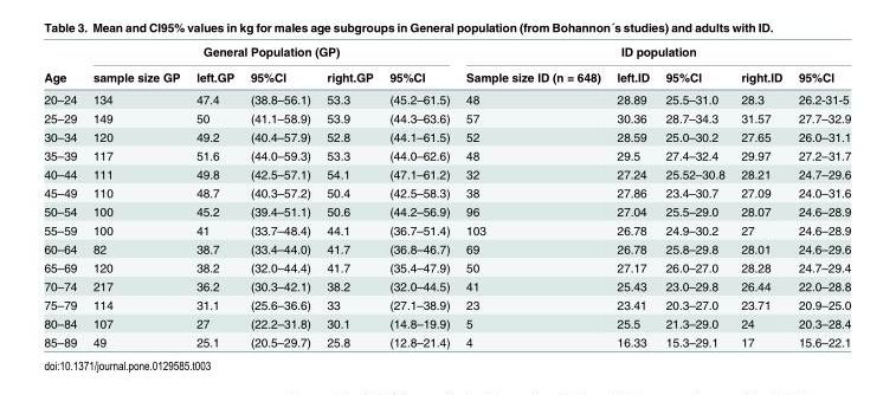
<table><thead><tr><td rowspan="2">Age</td><td colspan="5">General Population (GP)</td><td colspan="5">ID population</td></tr><tr><td>sample size GP</td><td>left.GP</td><td>95%CI</td><td>right.GP</td><td>95%CI</td><td>Sample size ID (n = 648)</td><td>left.ID</td><td>95%CI</td><td>right.ID</td><td>95%CI</td></tr></thead><tbody><tr><td>20–24</td><td>134</td><td>47.4</td><td>(38.8–56.1)</td><td>53.3</td><td>(45.2–61.5)</td><td>48</td><td>28.89</td><td>25.5–31.0</td><td>28.3</td><td>26.2-31-5</td></tr><tr><td>25–29</td><td>149</td><td>50</td><td>(41.1–58.9)</td><td>53.9</td><td>(44.3–63.6)</td><td>57</td><td>30.36</td><td>28.7–34.3</td><td>31.57</td><td>27.7–32.9</td></tr><tr><td>30–34</td><td>120</td><td>49.2</td><td>(40.4–57.9)</td><td>52.8</td><td>(44.1–61.5)</td><td>52</td><td>28.59</td><td>25.0–30.2</td><td>27.65</td><td>26.0–31.1</td></tr><tr><td>35–39</td><td>117</td><td>51.6</td><td>(44.0–59.3)</td><td>53.3</td><td>(44.0–62.6)</td><td>48</td><td>29.5</td><td>27.4–32.4</td><td>29.97</td><td>27.2–31.7</td></tr><tr><td>40–44</td><td>111</td><td>49.8</td><td>(42.5–57.1)</td><td>54.1</td><td>(47.1–61.2)</td><td>32</td><td>27.24</td><td>25.52–30.8</td><td>28.21</td><td>24.7–29.6</td></tr><tr><td>45–49</td><td>110</td><td>48.7</td><td>(40.3–57.2)</td><td>50.4</td><td>(42.5–58.3)</td><td>38</td><td>27.86</td><td>23.4–30.7</td><td>27.09</td><td>24.0–31.6</td></tr><tr><td>50–54</td><td>100</td><td>45.2</td><td>(39.4–51.1)</td><td>50.6</td><td>(44.2–56.9)</td><td>96</td><td>27.04</td><td>25.5–29.0</td><td>28.07</td><td>24.6–28.9</td></tr><tr><td>55–59</td><td>100</td><td>41</td><td>(33.7–48.4)</td><td>44.1</td><td>(36.7–51.4)</td><td>103</td><td>26.78</td><td>24.9–30.2</td><td>27</td><td>24.6–28.9</td></tr><tr><td>60–64</td><td>82</td><td>38.7</td><td>(33.4–44.0)</td><td>41.7</td><td>(36.8–46.7)</td><td>69</td><td>26.78</td><td>25.8–29.8</td><td>28.01</td><td>24.6–29.6</td></tr><tr><td>65–69</td><td>120</td><td>38.2</td><td>(32.0–44.4)</td><td>41.7</td><td>(35.4–47.9)</td><td>50</td><td>27.17</td><td>26.0–27.0</td><td>28.28</td><td>24.7–29.4</td></tr><tr><td>70–74</td><td>217</td><td>36.2</td><td>(30.3–42.1)</td><td>38.2</td><td>(32.0–44.5)</td><td>41</td><td>25.43</td><td>23.0–29.8</td><td>26.44</td><td>22.0–28.8</td></tr><tr><td>75–79</td><td>114</td><td>31.1</td><td>(25.6–36.6)</td><td>33</td><td>(27.1–38.9)</td><td>23</td><td>23.41</td><td>20.3–27.0</td><td>23.71</td><td>20.9–25.0</td></tr><tr><td>80–84</td><td>107</td><td>27</td><td>(22.2–31.8)</td><td>30.1</td><td>(14.8–19.9)</td><td>5</td><td>25.5</td><td>21.3–29.0</td><td>24</td><td>20.3–28.4</td></tr><tr><td>85–89</td><td>49</td><td>25.1</td><td>(20.5–29.7)</td><td>25.8</td><td>(12.8–21.4)</td><td>4</td><td>16.33</td><td>15.3–29.1</td><td>17</td><td>15.6–22.1</td></tr></tbody></table>